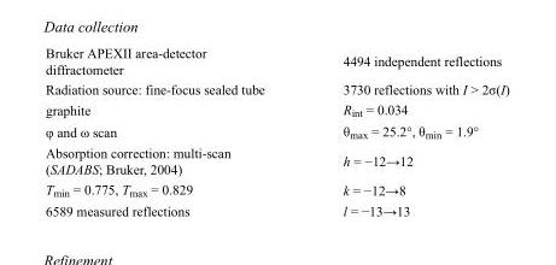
<table><tbody><tr><td>Bruker APEXII area-detector diffractometer</td><td>4494 independent reflections</td></tr><tr><td>Radiation source: fine-focus sealed tube</td><td>3730 reflections with I &gt; 2σ(I)</td></tr><tr><td>graphite</td><td>R<sub>int</sub> = 0.034</td></tr><tr><td>φ and ω scan</td><td>θ<sub>max</sub> = 25.2°, θ<sub>min</sub> = 1.9°</td></tr><tr><td>Absorption correction: multi-scan (SADABS; Bruker, 2004)</td><td>h = −12→12</td></tr><tr><td>T<sub>min</sub> = 0.775, T<sub>max</sub> = 0.829</td><td>k = −12→8</td></tr><tr><td>6589 measured reflections</td><td>l = −13→13</td></tr></tbody></table>